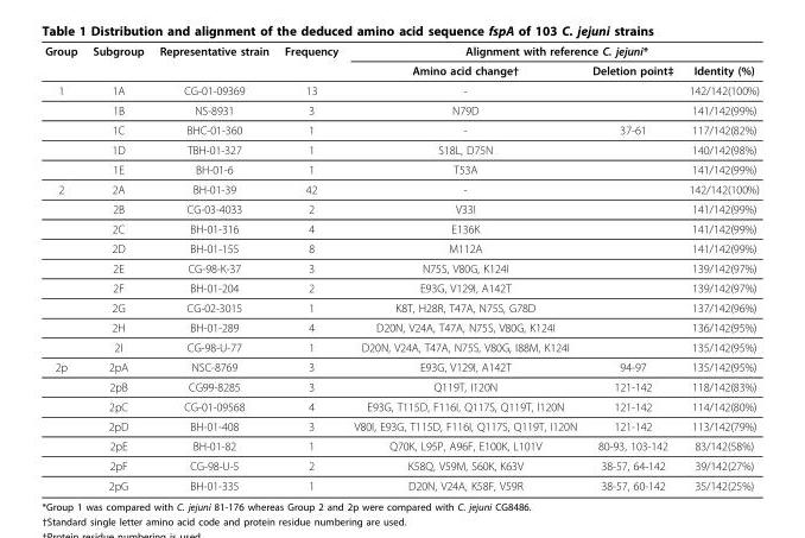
<table><thead><tr><td rowspan="2">Group</td><td rowspan="2">Subgroup</td><td rowspan="2">Representative strain</td><td rowspan="2">Frequency</td><td colspan="3">Alignment with reference C. jejuni*</td></tr><tr><td>Amino acid change†</td><td>Deletion point‡</td><td>Identity (%)</td></tr></thead><tbody><tr><td rowspan="5">1</td><td>1A</td><td>CG-01-09369</td><td>13</td><td>-</td><td></td><td>142/142(100%)</td></tr><tr><td>1B</td><td>NS-8931</td><td>3</td><td>N79D</td><td></td><td>141/142(99%)</td></tr><tr><td>1C</td><td>BHC-01-360</td><td>1</td><td>-</td><td>37-61</td><td>117/142(82%)</td></tr><tr><td>1D</td><td>TBH-01-327</td><td>1</td><td>S18L, D75N</td><td></td><td>140/142(98%)</td></tr><tr><td>1E</td><td>BH-01-6</td><td>1</td><td>T53A</td><td></td><td>141/142(99%)</td></tr><tr><td rowspan="9">2</td><td>2A</td><td>BH-01-39</td><td>42</td><td>-</td><td></td><td>142/142(100%)</td></tr><tr><td>2B</td><td>CG-03-4033</td><td>2</td><td>V33I</td><td></td><td>141/142(99%)</td></tr><tr><td>2C</td><td>BH-01-316</td><td>4</td><td>E136K</td><td></td><td>141/142(99%)</td></tr><tr><td>2D</td><td>BH-01-155</td><td>8</td><td>M112A</td><td></td><td>141/142(99%)</td></tr><tr><td>2E</td><td>CG-98-K-37</td><td>3</td><td>N75S, V80G, K124I</td><td></td><td>139/142(97%)</td></tr><tr><td>2F</td><td>BH-01-204</td><td>2</td><td>E93G, V129I, A142T</td><td></td><td>139/142(97%)</td></tr><tr><td>2G</td><td>CG-02-3015</td><td>1</td><td>K8T, H28R, T47A, N75S, G78D</td><td></td><td>137/142(96%)</td></tr><tr><td>2H</td><td>BH-01-289</td><td>4</td><td>D20N, V24A, T47A, N75S, V80G, K124I</td><td></td><td>136/142(95%)</td></tr><tr><td>2I</td><td>CG-98-U-77</td><td>1</td><td>D20N, V24A, T47A, N75S, V80G, I88M, K124I</td><td></td><td>135/142(95%)</td></tr><tr><td rowspan="7">2p</td><td>2pA</td><td>NSC-8769</td><td>3</td><td>E93G, V129I, A142T</td><td>94-97</td><td>135/142(95%)</td></tr><tr><td>2pB</td><td>CG99-8285</td><td>3</td><td>Q119T, I120N</td><td>121-142</td><td>118/142(83%)</td></tr><tr><td>2pC</td><td>CG-01-09568</td><td>4</td><td>E93G, T115D, F116I, Q117S, Q119T, I120N</td><td>121-142</td><td>114/142(80%)</td></tr><tr><td>2pD</td><td>BH-01-408</td><td>3</td><td>V80I, E93G, T115D, F116I, Q117S, Q119T, I120N</td><td>121-142</td><td>113/142(79%)</td></tr><tr><td>2pE</td><td>BH-01-82</td><td>1</td><td>Q70K, L95P, A96F, E100K, L101V</td><td>80-93, 103-142</td><td>83/142(58%)</td></tr><tr><td>2pF</td><td>CG-98-U-5</td><td>2</td><td>K58Q, V59M, S60K, K63V</td><td>38-57, 64-142</td><td>39/142(27%)</td></tr><tr><td>2pG</td><td>BH-01-335</td><td>1</td><td>D20N, V24A, K58F, V59R</td><td>38-57, 60-142</td><td>35/142(25%)</td></tr></tbody></table>